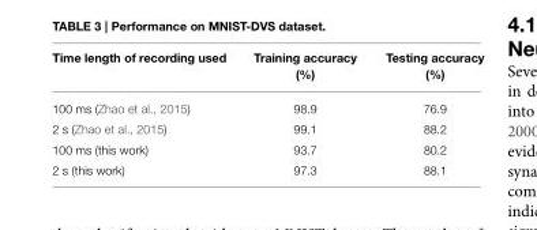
<table><thead><tr><td>Time length of recording used</td><td>Training accuracy (%)</td><td>Testing accuracy (%)</td></tr></thead><tbody><tr><td>100 ms (Zhao et al., 2015)</td><td>98.9</td><td>76.9</td></tr><tr><td>2 s (Zhao et al., 2015)</td><td>99.1</td><td>88.2</td></tr><tr><td>100 ms (this work)</td><td>93.7</td><td>80.2</td></tr><tr><td>2 s (this work)</td><td>97.3</td><td>88.1</td></tr></tbody></table>